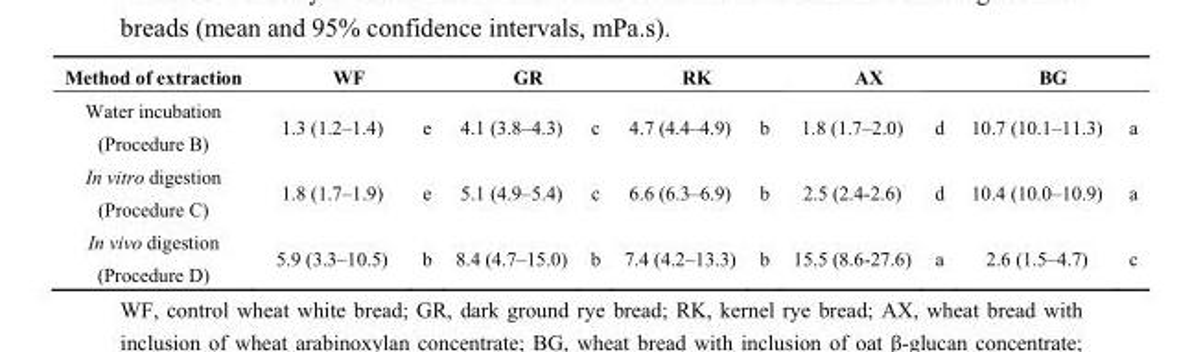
<table><thead><tr><td>Method of extraction</td><td>WF</td><td></td><td>GR</td><td></td><td>RK</td><td></td><td>AX</td><td></td><td>BG</td><td></td></tr></thead><tbody><tr><td>Water incubation (Procedure B)</td><td>1.3 (1.2–1.4)</td><td>e</td><td>4.1 (3.8–4.3)</td><td>c</td><td>4.7 (4.4–4.9)</td><td>b</td><td>1.8 (1.7–2.0)</td><td>d</td><td>10.7 (10.1–11.3)</td><td>a</td></tr><tr><td>In vitro digestion (Procedure C)</td><td>1.8 (1.7–1.9)</td><td>e</td><td>5.1 (4.9–5.4)</td><td>c</td><td>6.6 (6.3–6.9)</td><td>b</td><td>2.5 (2.4-2.6)</td><td>d</td><td>10.4 (10.0–10.9)</td><td>a</td></tr><tr><td>In vivo digestion (Procedure D)</td><td>5.9 (3.3–10.5)</td><td>b</td><td>8.4 (4.7–15.0)</td><td>b</td><td>7.4 (4.2–13.3)</td><td>b</td><td>15.5 (8.6-27.6)</td><td>a</td><td>2.6 (1.5–4.7)</td><td>c</td></tr></tbody></table>